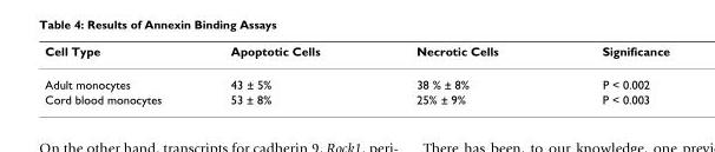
<table><thead><tr><td>Cell Type</td><td>Apoptotic Cells</td><td>Necrotic Cells</td><td>Significance</td></tr></thead><tbody><tr><td>Adult monocytes</td><td>43 ± 5%</td><td>38 % ± 8%</td><td>P &lt; 0.002</td></tr><tr><td>Cord blood monocytes</td><td>53 ± 8%</td><td>25% ± 9%</td><td>P &lt; 0.003</td></tr></tbody></table>